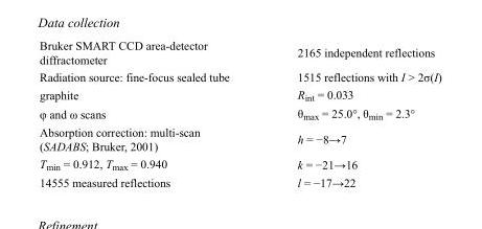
<table><tbody><tr><td>Bruker SMART CCD area-detector diffractometer</td><td>2165 independent reflections</td></tr><tr><td>Radiation source: fine-focus sealed tube</td><td>1515 reflections with I &gt; 2σ(I)</td></tr><tr><td>graphite</td><td>R<sub>int</sub> = 0.033</td></tr><tr><td>φ and ω scans</td><td>θ<sub>max</sub> = 25.0°, θ<sub>min</sub> = 2.3°</td></tr><tr><td>Absorption correction: multi-scan (SADABS; Bruker, 2001)</td><td>h = −8→7</td></tr><tr><td>T<sub>min</sub> = 0.912, T<sub>max</sub> = 0.940</td><td>k = −21→16</td></tr><tr><td>14555 measured reflections</td><td>l = −17→22</td></tr></tbody></table>